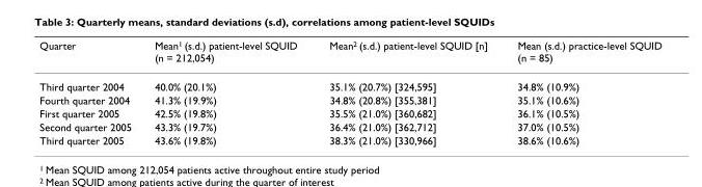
<table><thead><tr><td>Quarter</td><td>Mean<sup>1</sup> (s.d.) patient-level SQUID (n = 212,054)</td><td>Mean<sup>2</sup> (s.d.) patient-level SQUID [n]</td><td>Mean (s.d.) practice-level SQUID (n = 85)</td></tr></thead><tbody><tr><td>Third quarter 2004</td><td>40.0% (20.1%)</td><td>35.1% (20.7%) [324,595]</td><td>34.8% (10.9%)</td></tr><tr><td>Fourth quarter 2004</td><td>41.3% (19.9%)</td><td>34.8% (20.8%) [355,381]</td><td>35.1% (10.6%)</td></tr><tr><td>First quarter 2005</td><td>42.5% (19.8%)</td><td>35.5% (21.0%) [360,682]</td><td>36.1% (10.5%)</td></tr><tr><td>Second quarter 2005</td><td>43.3% (19.7%)</td><td>36.4% (21.0%) [362,712]</td><td>37.0% (10.5%)</td></tr><tr><td>Third quarter 2005</td><td>43.6% (19.8%)</td><td>38.3% (21.0%) [330,966]</td><td>38.6% (10.6%)</td></tr></tbody></table>